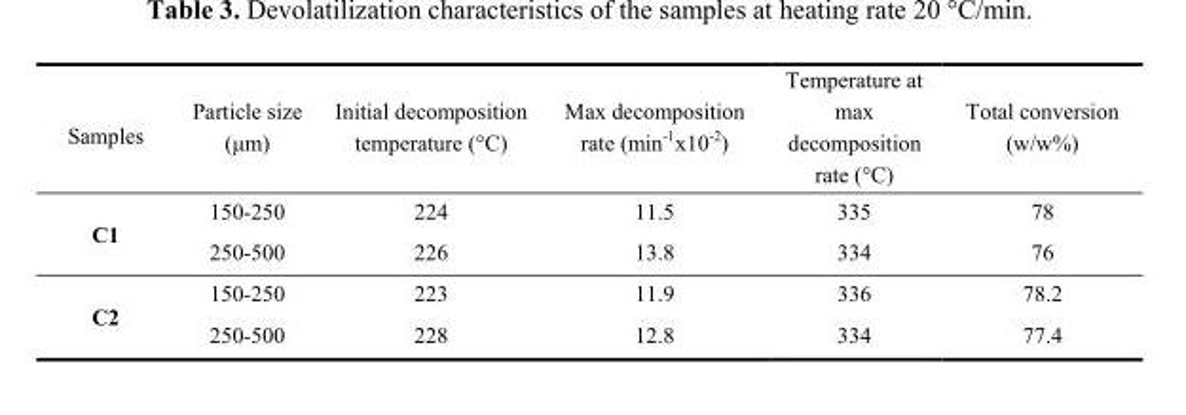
<table><thead><tr><td>Samples</td><td>Particle size (μm)</td><td>Initial decomposition temperature (°C)</td><td>Max decomposition rate (min-1x10-2)</td><td>Temperature at max decomposition rate (°C)</td><td>Total conversion (w/w%)</td></tr></thead><tbody><tr><td rowspan="2">C1</td><td>150-250</td><td>224</td><td>11.5</td><td>335</td><td>78</td></tr><tr><td>250-500</td><td>226</td><td>13.8</td><td>334</td><td>76</td></tr><tr><td rowspan="2">C2</td><td>150-250</td><td>223</td><td>11.9</td><td>336</td><td>78.2</td></tr><tr><td>250-500</td><td>228</td><td>12.8</td><td>334</td><td>77.4</td></tr></tbody></table>